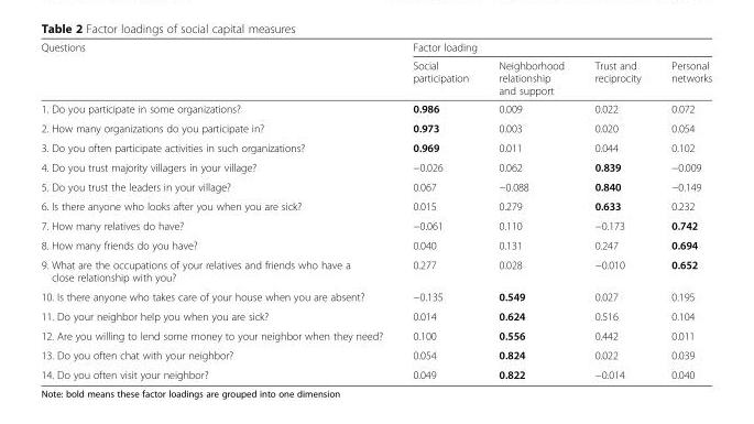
<table><thead><tr><td rowspan="2">Questions</td><td colspan="4">Factor loading</td></tr><tr><td>Social participation</td><td>Neighborhood relationship and support</td><td>Trust and reciprocity</td><td>Personal networks</td></tr></thead><tbody><tr><td>1. Do you participate in some organizations?</td><td>0.986</td><td>0.009</td><td>0.022</td><td>0.072</td></tr><tr><td>2. How many organizations do you participate in?</td><td>0.973</td><td>0.003</td><td>0.020</td><td>0.054</td></tr><tr><td>3. Do you often participate activities in such organizations?</td><td>0.969</td><td>0.011</td><td>0.044</td><td>0.102</td></tr><tr><td>4. Do you trust majority villagers in your village?</td><td>−0.026</td><td>0.062</td><td>0.839</td><td>−0.009</td></tr><tr><td>5. Do you trust the leaders in your village?</td><td>0.067</td><td>−0.088</td><td>0.840</td><td>−0.149</td></tr><tr><td>6. Is there anyone who looks after you when you are sick?</td><td>0.015</td><td>0.279</td><td>0.633</td><td>0.232</td></tr><tr><td>7. How many relatives do have?</td><td>−0.061</td><td>0.110</td><td>−0.173</td><td>0.742</td></tr><tr><td>8. How many friends do you have?</td><td>0.040</td><td>0.131</td><td>0.247</td><td>0.694</td></tr><tr><td>9. What are the occupations of your relatives and friends who have a close relationship with you?</td><td>0.277</td><td>0.028</td><td>−0.010</td><td>0.652</td></tr><tr><td>10. Is there anyone who takes care of your house when you are absent?</td><td>−0.135</td><td>0.549</td><td>0.027</td><td>0.195</td></tr><tr><td>11. Do your neighbor help you when you are sick?</td><td>0.014</td><td>0.624</td><td>0.516</td><td>0.104</td></tr><tr><td>12. Are you willing to lend some money to your neighbor when they need?</td><td>0.100</td><td>0.556</td><td>0.442</td><td>0.011</td></tr><tr><td>13. Do you often chat with your neighbor?</td><td>0.054</td><td>0.824</td><td>0.022</td><td>0.039</td></tr><tr><td>14. Do you often visit your neighbor?</td><td>0.049</td><td>0.822</td><td>−0.014</td><td>0.040</td></tr></tbody></table>